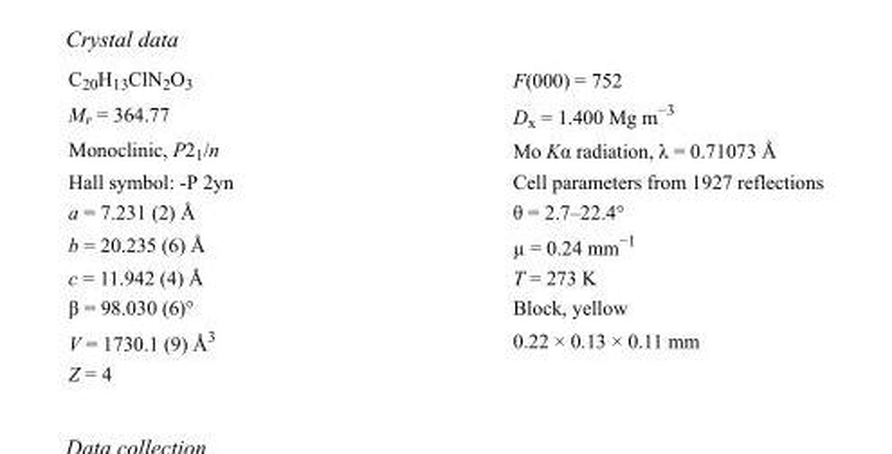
<table><tbody><tr><td>C<sub>20</sub>H<sub>13</sub>ClN<sub>2</sub>O<sub>3</sub></td><td>F(000) = 752</td></tr><tr><td>M<sub>r</sub> = 364.77</td><td>D<sub>x</sub> = 1.400 Mg m<sup>−3</sup></td></tr><tr><td>Monoclinic, P2<sub>1</sub>/n</td><td>Mo Kα radiation, λ = 0.71073 Å</td></tr><tr><td>Hall symbol: -P 2yn</td><td>Cell parameters from 1927 reflections</td></tr><tr><td>a = 7.231 (2) Å</td><td>θ = 2.7–22.4°</td></tr><tr><td>b = 20.235 (6) Å</td><td>µ = 0.24 mm<sup>−1</sup></td></tr><tr><td>c = 11.942 (4) Å</td><td>T = 273 K</td></tr><tr><td>β = 98.030 (6)°</td><td>Block, yellow</td></tr><tr><td>V = 1730.1 (9) Å<sup>3</sup></td><td>0.22 × 0.13 × 0.11 mm</td></tr><tr><td>Z = 4</td><td></td></tr></tbody></table>